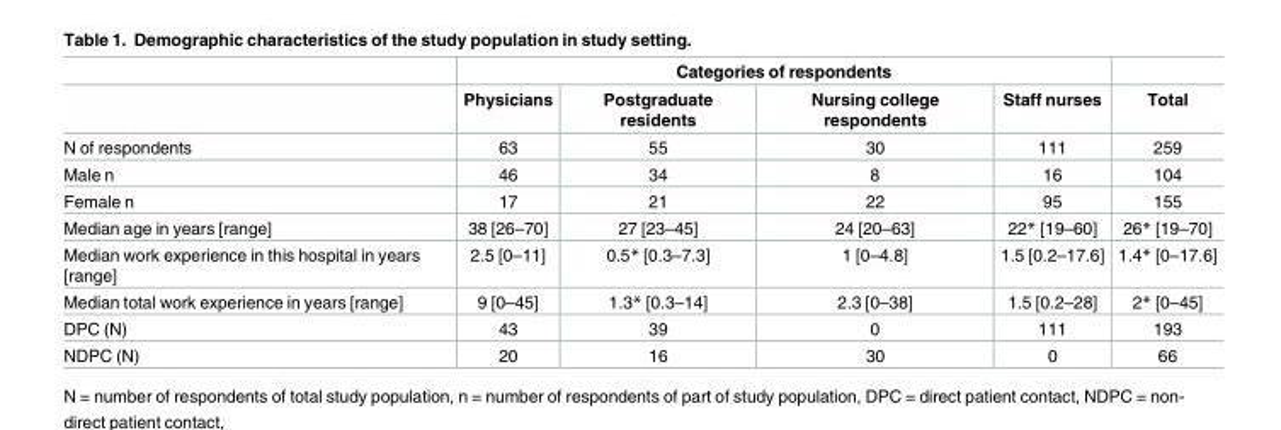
<table><thead><tr><td rowspan="2"></td><td colspan="4">Categories of respondents</td><td rowspan="2">Total</td></tr><tr><td>Physicians</td><td>Postgraduate residents</td><td>Nursing college respondents</td><td>Staff nurses</td></tr></thead><tbody><tr><td>N of respondents</td><td>63</td><td>55</td><td>30</td><td>111</td><td>259</td></tr><tr><td>Male n</td><td>46</td><td>34</td><td>8</td><td>16</td><td>104</td></tr><tr><td>Female n</td><td>17</td><td>21</td><td>22</td><td>95</td><td>155</td></tr><tr><td>Median age in years [range]</td><td>38 [26–70]</td><td>27 [23–45]</td><td>24 [20–63]</td><td>22* [19–60]</td><td>26* [19–70]</td></tr><tr><td>Median work experience in this hospital in years [range]</td><td>2.5 [0–11]</td><td>0.5* [0.3–7.3]</td><td>1 [0–4.8]</td><td>1.5 [0.2–17.6]</td><td>1.4* [0–17.6]</td></tr><tr><td>Median total work experience in years [range]</td><td>9 [0–45]</td><td>1.3* [0.3–14]</td><td>2.3 [0–38]</td><td>1.5 [0.2–28]</td><td>2* [0–45]</td></tr><tr><td>DPC (N)</td><td>43</td><td>39</td><td>0</td><td>111</td><td>193</td></tr><tr><td>NDPC (N)</td><td>20</td><td>16</td><td>30</td><td>0</td><td>66</td></tr></tbody></table>